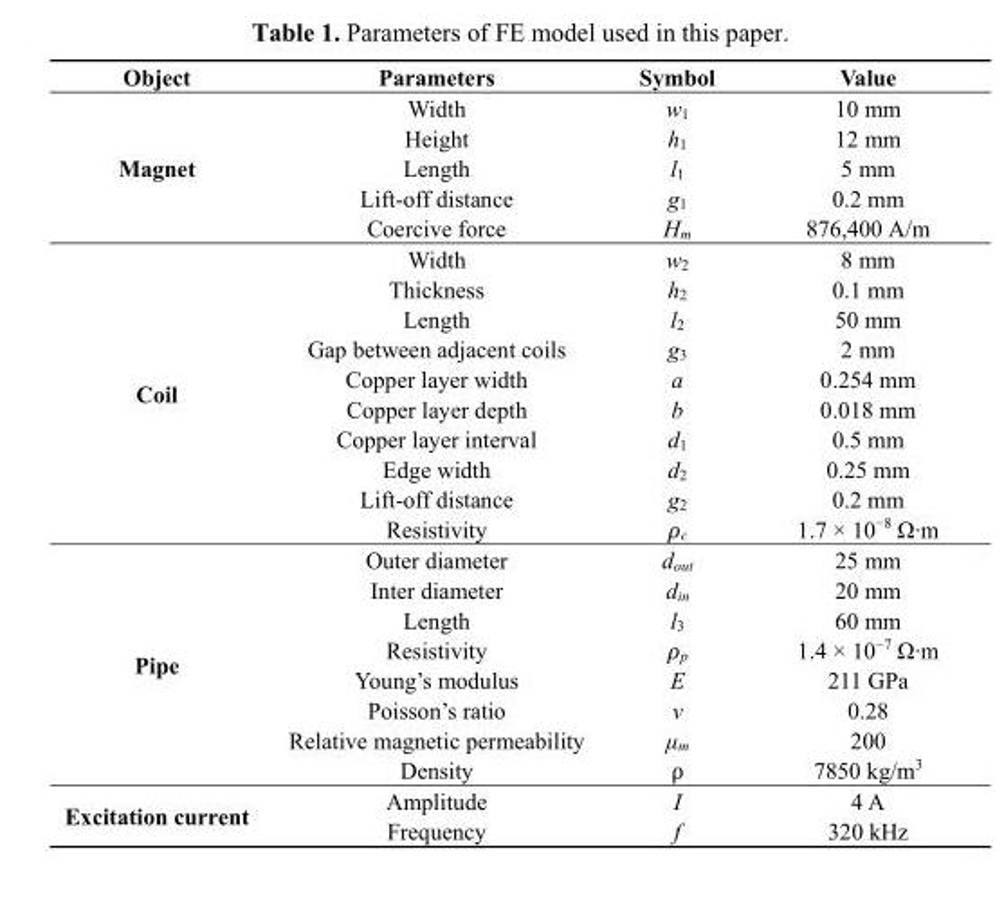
<table><thead><tr><td>Object</td><td>Parameters</td><td>Symbol</td><td>Value</td></tr></thead><tbody><tr><td rowspan="5">Magnet</td><td>Width</td><td>w<sub>1</sub></td><td>10 mm</td></tr><tr><td>Height</td><td>h<sub>1</sub></td><td>12 mm</td></tr><tr><td>Length</td><td>l<sub>1</sub></td><td>5 mm</td></tr><tr><td>Lift-off distance</td><td>g<sub>1</sub></td><td>0.2 mm</td></tr><tr><td>Coercive force</td><td>H<sub>m</sub></td><td>876,400 A/m</td></tr><tr><td rowspan="10">Coil</td><td>Width</td><td>w<sub>2</sub></td><td>8 mm</td></tr><tr><td>Thickness</td><td>h<sub>2</sub></td><td>0.1 mm</td></tr><tr><td>Length</td><td>l<sub>2</sub></td><td>50 mm</td></tr><tr><td>Gap between adjacent coils</td><td>g<sub>3</sub></td><td>2 mm</td></tr><tr><td>Copper layer width</td><td>a</td><td>0.254 mm</td></tr><tr><td>Copper layer depth</td><td>b</td><td>0.018 mm</td></tr><tr><td>Copper layer interval</td><td>d<sub>1</sub></td><td>0.5 mm</td></tr><tr><td>Edge width</td><td>d<sub>2</sub></td><td>0.25 mm</td></tr><tr><td>Lift-off distance</td><td>g<sub>2</sub></td><td>0.2 mm</td></tr><tr><td>Resistivity</td><td>ρ<sub>c</sub></td><td>1.7 × 10<sup>−8</sup> Ω·m</td></tr><tr><td rowspan="8">Pipe</td><td>Outer diameter</td><td>d<sub>out</sub></td><td>25 mm</td></tr><tr><td>Inter diameter</td><td>d<sub>in</sub></td><td>20 mm</td></tr><tr><td>Length</td><td>l<sub>3</sub></td><td>60 mm</td></tr><tr><td>Resistivity</td><td>ρ<sub>p</sub></td><td>1.4 × 10<sup>−7</sup> Ω·m</td></tr><tr><td>Young’s modulus</td><td>E</td><td>211 GPa</td></tr><tr><td>Poisson’s ratio</td><td>v</td><td>0.28</td></tr><tr><td>Relative magnetic permeability</td><td>μ<sub>m</sub></td><td>200</td></tr><tr><td>Density</td><td>ρ</td><td>7850 kg/m<sup>3</sup></td></tr><tr><td rowspan="2">Excitation current</td><td>Amplitude</td><td>I</td><td>4 A</td></tr><tr><td>Frequency</td><td>f</td><td>320 kHz</td></tr></tbody></table>